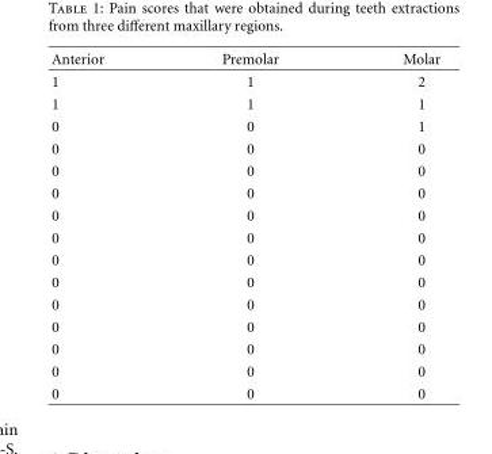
<table><thead><tr><td>Anterior</td><td>Premolar</td><td>Molar</td></tr></thead><tbody><tr><td>1</td><td>1</td><td>2</td></tr><tr><td>1</td><td>1</td><td>1</td></tr><tr><td>0</td><td>0</td><td>1</td></tr><tr><td>0</td><td>0</td><td>0</td></tr><tr><td>0</td><td>0</td><td>0</td></tr><tr><td>0</td><td>0</td><td>0</td></tr><tr><td>0</td><td>0</td><td>0</td></tr><tr><td>0</td><td>0</td><td>0</td></tr><tr><td>0</td><td>0</td><td>0</td></tr><tr><td>0</td><td>0</td><td>0</td></tr><tr><td>0</td><td>0</td><td>0</td></tr><tr><td>0</td><td>0</td><td>0</td></tr><tr><td>0</td><td>0</td><td>0</td></tr><tr><td>0</td><td>0</td><td>0</td></tr><tr><td>0</td><td>0</td><td>0</td></tr></tbody></table>